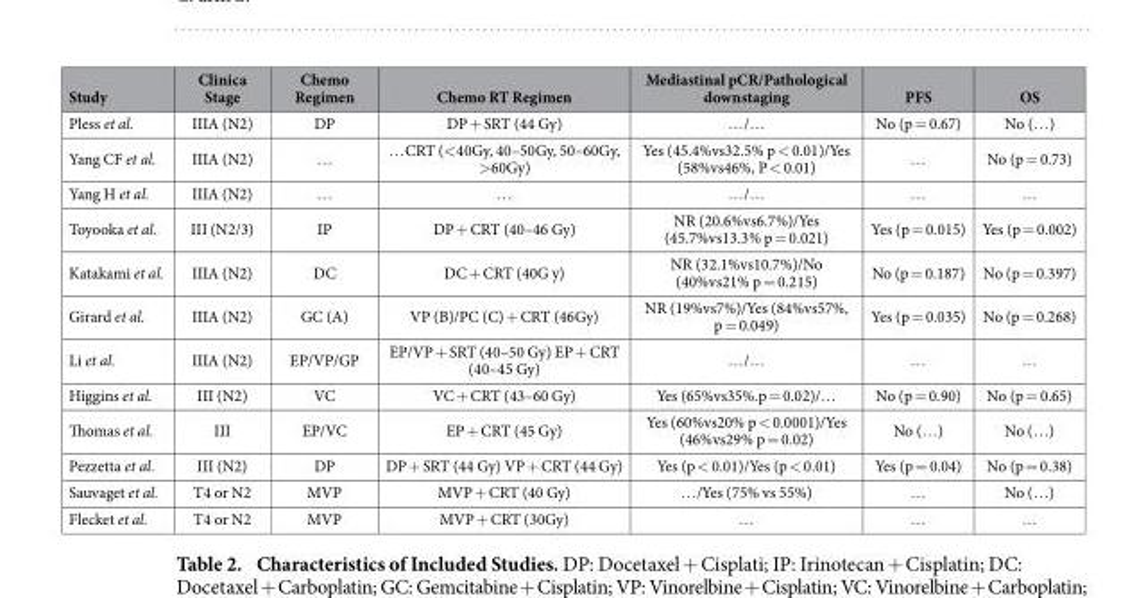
<table><thead><tr><td>Study</td><td>Clinica Stage</td><td>Chemo Regimen</td><td>Chemo RT Regimen</td><td>Mediastinal pCR/Pathological downstaging</td><td>PFS</td><td>OS</td></tr></thead><tbody><tr><td>Pless et al.</td><td>IIIA (N2)</td><td>DP</td><td>DP + SRT (44 Gy)</td><td>… /…</td><td>No (p = 0.67)</td><td>No (… )</td></tr><tr><td>Yang CF et al.</td><td>IIIA (N2)</td><td>…</td><td>… CRT (&lt; 40Gy, 40–50Gy, 50–60Gy, &gt; 60Gy)</td><td>Yes (45.4%vs32.5% p &lt; 0.01)/Yes (58%vs46%, P &lt; 0.01)</td><td>…</td><td>No (p = 0.73)</td></tr><tr><td>Yang H et al.</td><td>IIIA (N2)</td><td>…</td><td>…</td><td>… /…</td><td>…</td><td>…</td></tr><tr><td>Toyooka et al.</td><td>III (N2/3)</td><td>IP</td><td>DP + CRT (40–46 Gy)</td><td>NR (20.6%vs6.7%)/Yes (45.7%vs13.3% p = 0.021)</td><td>Yes (p = 0.015)</td><td>Yes (p = 0.002)</td></tr><tr><td>Katakami et al.</td><td>IIIA (N2)</td><td>DC</td><td>DC + CRT (40G y)</td><td>NR (32.1%vs10.7%)/No (40%vs21% p = 0.215)</td><td>No (p = 0.187)</td><td>No (p = 0.397)</td></tr><tr><td>Girard et al.</td><td>IIIA (N2)</td><td>GC (A)</td><td>VP (B)/PC (C) + CRT (46Gy)</td><td>NR (19%vs7%)/Yes (84%vs57%, p = 0.049)</td><td>Yes (p = 0.035)</td><td>No (p = 0.268)</td></tr><tr><td>Li et al.</td><td>IIIA (N2)</td><td>EP/VP/GP</td><td>EP/VP + SRT (40–50 Gy) EP + CRT (40–45 Gy)</td><td>… /…</td><td>…</td><td>…</td></tr><tr><td>Higgins et al.</td><td>III (N2)</td><td>VC</td><td>VC + CRT (43–60 Gy)</td><td>Yes (65%vs35%.p = 0.02)/…</td><td>No (p = 0.90)</td><td>No (p = 0.65)</td></tr><tr><td>Thomas et al.</td><td>III</td><td>EP/VC</td><td>EP + CRT (45 Gy)</td><td>Yes (60%vs20% p &lt; 0.0001)/Yes (46%vs29% p = 0.02)</td><td>No (… )</td><td>No (… )</td></tr><tr><td>Pezzetta et al.</td><td>III (N2)</td><td>DP</td><td>DP + SRT (44 Gy) VP + CRT (44 Gy)</td><td>Yes (p &lt; 0.01)/Yes (p &lt; 0.01)</td><td>Yes (p = 0.04)</td><td>No (p = 0.38)</td></tr><tr><td>Sauvaget et al.</td><td>T4 or N2</td><td>MVP</td><td>MVP + CRT (40 Gy)</td><td>… /Yes (75% vs 55%)</td><td>…</td><td>No (… )</td></tr><tr><td>Flecket et al.</td><td>T4 or N2</td><td>MVP</td><td>MVP + CRT (30Gy)</td><td>…</td><td>…</td><td>…</td></tr></tbody></table>